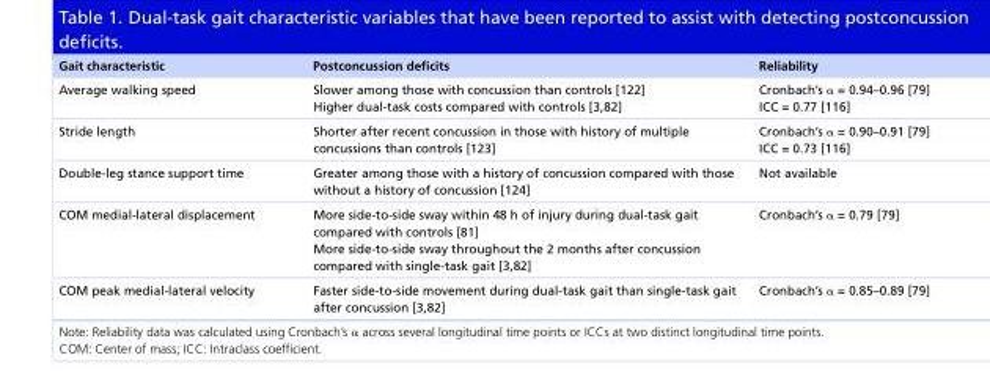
<table><thead><tr><td>Gait characteristic</td><td>Postconcussion deficits</td><td>Reliability</td></tr></thead><tbody><tr><td>Average walking speed</td><td>Slower among those with concussion than controls [122] Higher dual-task costs compared with controls [3,82]</td><td>Cronbach’s α = 0.94–0.96 [79] ICC = 0.77 [116]</td></tr><tr><td>Stride length</td><td>Shorter after recent concussion in those with history of multiple concussions than controls [123]</td><td>Cronbach’s α = 0.90–0.91 [79] ICC = 0.73 [116]</td></tr><tr><td>Double-leg stance support time</td><td>Greater among those with a history of concussion compared with those without a history of concussion [124]</td><td>Not available</td></tr><tr><td>COM medial-lateral displacement</td><td>More side-to-side sway within 48 h of injury during dual-task gait compared with controls [81] More side-to-side sway throughout the 2 months after concussion compared with single-task gait [3,82]</td><td>Cronbach’s α = 0.79 [79]</td></tr><tr><td>COM peak medial-lateral velocity</td><td>Faster side-to-side movement during dual-task gait than single-task gait after concussion [3,82]</td><td>Cronbach’s α = 0.85–0.89 [79]</td></tr></tbody></table>